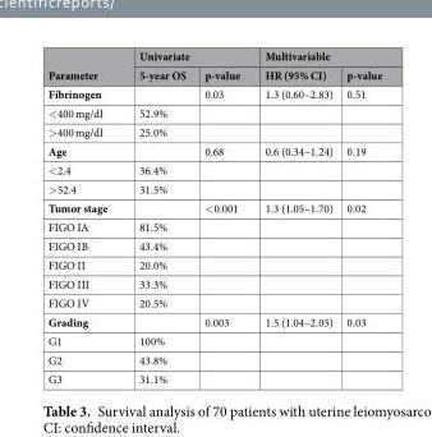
<table><thead><tr><td rowspan="2">Parameter</td><td colspan="2">Univariate</td><td colspan="2">Multivariable</td></tr><tr><td>5-year OS</td><td>p-value</td><td>HR (95% CI)</td><td>p-value</td></tr></thead><tbody><tr><td>Fibrinogen</td><td></td><td>0.03</td><td>1.3 (0.60–2.83)</td><td>0.51</td></tr><tr><td>&lt;400 mg/dl</td><td>52.9%</td><td></td><td></td><td></td></tr><tr><td>&gt;400 mg/dl</td><td>25.0%</td><td></td><td></td><td></td></tr><tr><td>Age</td><td></td><td>0.68</td><td>0.6 (0.34–1.24)</td><td>0.19</td></tr><tr><td>&lt;2.4</td><td>36.4%</td><td></td><td></td><td></td></tr><tr><td>&gt;52.4</td><td>31.5%</td><td></td><td></td><td></td></tr><tr><td>Tumor stage</td><td></td><td>&lt;0.001</td><td>1.3 (1.05–1.70)</td><td>0.02</td></tr><tr><td>FIGO IA</td><td>81.5%</td><td></td><td></td><td></td></tr><tr><td>FIGO IB</td><td>43.4%</td><td></td><td></td><td></td></tr><tr><td>FIGO II</td><td>20.0%</td><td></td><td></td><td></td></tr><tr><td>FIGO III</td><td>33.3%</td><td></td><td></td><td></td></tr><tr><td>FIGO IV</td><td>20.5%</td><td></td><td></td><td></td></tr><tr><td>Grading</td><td></td><td>0.003</td><td>1.5 (1.04–2.05)</td><td>0.03</td></tr><tr><td>G1</td><td>100%</td><td></td><td></td><td></td></tr><tr><td>G2</td><td>43.8%</td><td></td><td></td><td></td></tr><tr><td>G3</td><td>31.1%</td><td></td><td></td><td></td></tr></tbody></table>